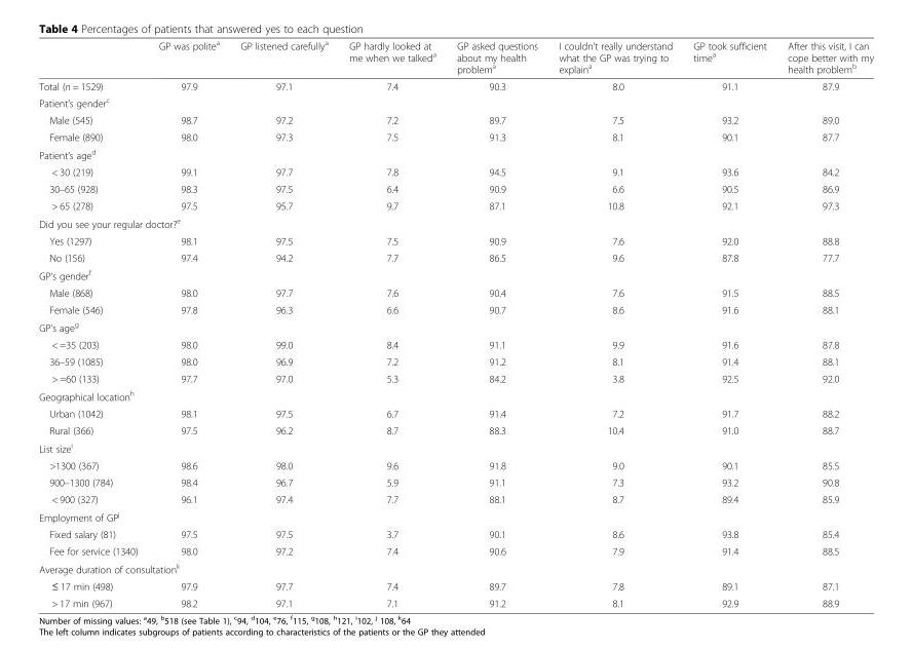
<table><thead><tr><td></td><td>GP was polite<sup>a</sup></td><td>GP listened carefully<sup>a</sup></td><td>GP hardly looked at me when we talked<sup>a</sup></td><td>GP asked questions about my health problem<sup>a</sup></td><td>I couldn’t really understand what the GP was trying to explain<sup>a</sup></td><td>GP took sufficient time<sup>a</sup></td><td>After this visit, I can cope better with my health problem<sup>b</sup></td></tr></thead><tbody><tr><td>Total (n = 1529)</td><td>97.9</td><td>97.1</td><td>7.4</td><td>90.3</td><td>8.0</td><td>91.1</td><td>87.9</td></tr><tr><td colspan="8">Patient’s gender<sup>c</sup></td></tr><tr><td>Male (545)</td><td>98.7</td><td>97.2</td><td>7.2</td><td>89.7</td><td>7.5</td><td>93.2</td><td>89.0</td></tr><tr><td>Female (890)</td><td>98.0</td><td>97.3</td><td>7.5</td><td>91.3</td><td>8.1</td><td>90.1</td><td>87.7</td></tr><tr><td colspan="8">Patient’s age<sup>d</sup></td></tr><tr><td>&lt; 30 (219)</td><td>99.1</td><td>97.7</td><td>7.8</td><td>94.5</td><td>9.1</td><td>93.6</td><td>84.2</td></tr><tr><td>30–65 (928)</td><td>98.3</td><td>97.5</td><td>6.4</td><td>90.9</td><td>6.6</td><td>90.5</td><td>86.9</td></tr><tr><td>&gt; 65 (278)</td><td>97.5</td><td>95.7</td><td>9.7</td><td>87.1</td><td>10.8</td><td>92.1</td><td>97.3</td></tr><tr><td colspan="8">Did you see your regular doctor?<sup>e</sup></td></tr><tr><td>Yes (1297)</td><td>98.1</td><td>97.5</td><td>7.5</td><td>90.9</td><td>7.6</td><td>92.0</td><td>88.8</td></tr><tr><td>No (156)</td><td>97.4</td><td>94.2</td><td>7.7</td><td>86.5</td><td>9.6</td><td>87.8</td><td>77.7</td></tr><tr><td colspan="8">GP’s gender<sup>f</sup></td></tr><tr><td>Male (868)</td><td>98.0</td><td>97.7</td><td>7.6</td><td>90.4</td><td>7.6</td><td>91.5</td><td>88.5</td></tr><tr><td>Female (546)</td><td>97.8</td><td>96.3</td><td>6.6</td><td>90.7</td><td>8.6</td><td>91.6</td><td>88.1</td></tr><tr><td colspan="8">GP’s age<sup>g</sup></td></tr><tr><td>&lt; =35 (203)</td><td>98.0</td><td>99.0</td><td>8.4</td><td>91.1</td><td>9.9</td><td>91.6</td><td>87.8</td></tr><tr><td>36–59 (1085)</td><td>98.0</td><td>96.9</td><td>7.2</td><td>91.2</td><td>8.1</td><td>91.4</td><td>88.1</td></tr><tr><td>&gt; =60 (133)</td><td>97.7</td><td>97.0</td><td>5.3</td><td>84.2</td><td>3.8</td><td>92.5</td><td>92.0</td></tr><tr><td colspan="8">Geographical location<sup>h</sup></td></tr><tr><td>Urban (1042)</td><td>98.1</td><td>97.5</td><td>6.7</td><td>91.4</td><td>7.2</td><td>91.7</td><td>88.2</td></tr><tr><td>Rural (366)</td><td>97.5</td><td>96.2</td><td>8.7</td><td>88.3</td><td>10.4</td><td>91.0</td><td>88.7</td></tr><tr><td colspan="8">List size<sup>i</sup></td></tr><tr><td>&gt;1300 (367)</td><td>98.6</td><td>98.0</td><td>9.6</td><td>91.8</td><td>9.0</td><td>90.1</td><td>85.5</td></tr><tr><td>900–1300 (784)</td><td>98.4</td><td>96.7</td><td>5.9</td><td>91.1</td><td>7.3</td><td>93.2</td><td>90.8</td></tr><tr><td>&lt; 900 (327)</td><td>96.1</td><td>97.4</td><td>7.7</td><td>88.1</td><td>8.7</td><td>89.4</td><td>85.9</td></tr><tr><td colspan="8">Employment of GP<sup>j</sup></td></tr><tr><td>Fixed salary (81)</td><td>97.5</td><td>97.5</td><td>3.7</td><td>90.1</td><td>8.6</td><td>93.8</td><td>85.4</td></tr><tr><td>Fee for service (1340)</td><td>98.0</td><td>97.2</td><td>7.4</td><td>90.6</td><td>7.9</td><td>91.4</td><td>88.5</td></tr><tr><td colspan="8">Average duration of consultation<sup>k</sup></td></tr><tr><td>≤ 17 min (498)</td><td>97.9</td><td>97.7</td><td>7.4</td><td>89.7</td><td>7.8</td><td>89.1</td><td>87.1</td></tr><tr><td>&gt; 17 min (967)</td><td>98.2</td><td>97.1</td><td>7.1</td><td>91.2</td><td>8.1</td><td>92.9</td><td>88.9</td></tr></tbody></table>